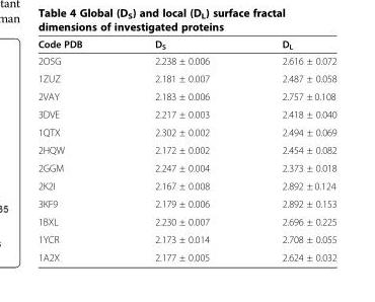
<table><thead><tr><td>Code PDB</td><td>D<sub>S</sub></td><td>D<sub>L</sub></td></tr></thead><tbody><tr><td>2O5G</td><td>2.238 ± 0.006</td><td>2.616 ± 0.072</td></tr><tr><td>1ZUZ</td><td>2.181 ± 0.007</td><td>2.487 ± 0.058</td></tr><tr><td>2VAY</td><td>2.183 ± 0.006</td><td>2.757 ± 0.108</td></tr><tr><td>3DVE</td><td>2.217 ± 0.003</td><td>2.418 ± 0.040</td></tr><tr><td>1QTX</td><td>2.302 ± 0.002</td><td>2.494 ± 0.069</td></tr><tr><td>2HQW</td><td>2.172 ± 0.002</td><td>2.454 ± 0.082</td></tr><tr><td>2GGM</td><td>2.247 ± 0.004</td><td>2.373 ± 0.018</td></tr><tr><td>2K2I</td><td>2.167 ± 0.008</td><td>2.892 ± 0.124</td></tr><tr><td>3KF9</td><td>2.179 ± 0.006</td><td>2.892 ± 0.153</td></tr><tr><td>1BXL</td><td>2.230 ± 0.007</td><td>2.696 ± 0.225</td></tr><tr><td>1YCR</td><td>2.173 ± 0.014</td><td>2.708 ± 0.055</td></tr><tr><td>1A2X</td><td>2.177 ± 0.005</td><td>2.624 ± 0.032</td></tr></tbody></table>